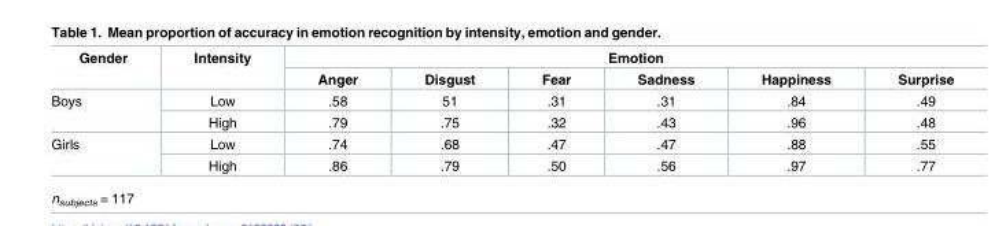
<table><thead><tr><td rowspan="2">Gender</td><td rowspan="2">Intensity</td><td colspan="6">Emotion</td></tr><tr><td>Anger</td><td>Disgust</td><td>Fear</td><td>Sadness</td><td>Happiness</td><td>Surprise</td></tr></thead><tbody><tr><td rowspan="2">Boys</td><td>Low</td><td>.58</td><td>51</td><td>.31</td><td>.31</td><td>.84</td><td>.49</td></tr><tr><td>High</td><td>.79</td><td>.75</td><td>.32</td><td>.43</td><td>.96</td><td>.48</td></tr><tr><td rowspan="2">Girls</td><td>Low</td><td>.74</td><td>.68</td><td>.47</td><td>.47</td><td>.88</td><td>.55</td></tr><tr><td>High</td><td>.86</td><td>.79</td><td>.50</td><td>.56</td><td>.97</td><td>.77</td></tr></tbody></table>